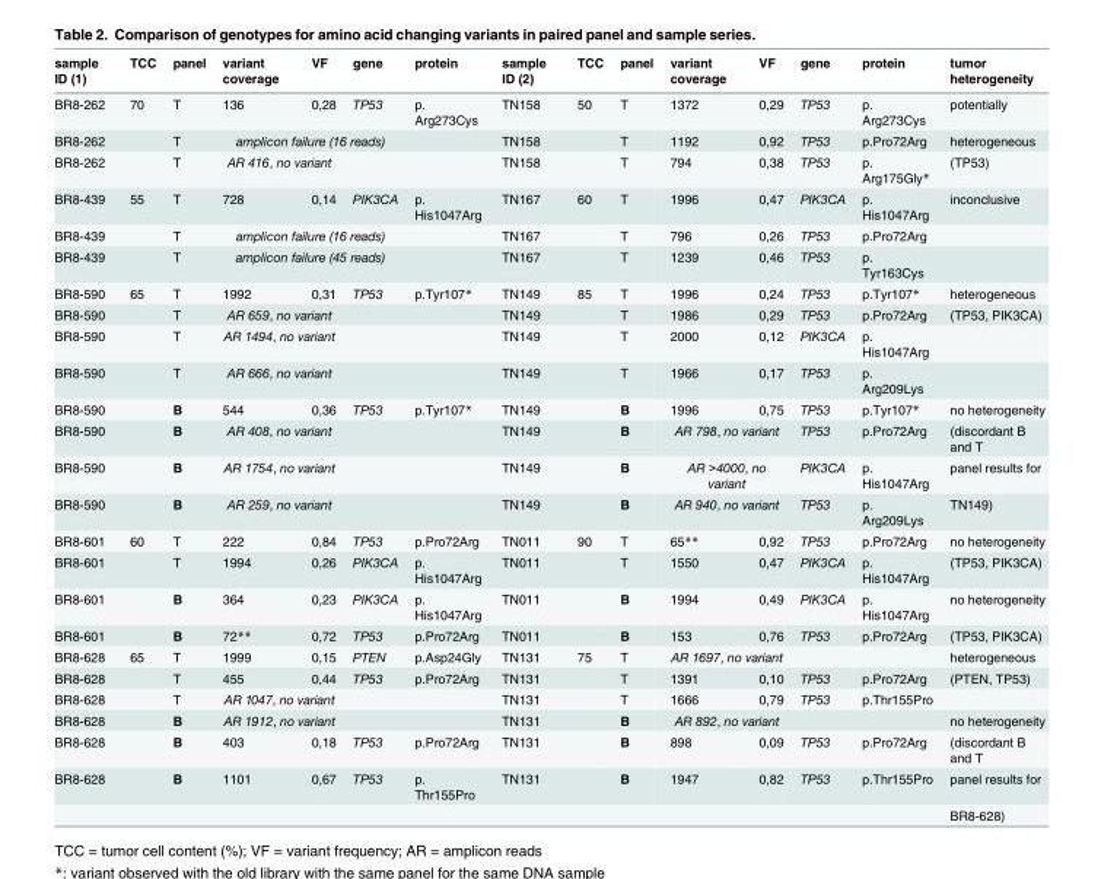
<table><thead><tr><td>sample ID (1)</td><td>TCC</td><td>panel</td><td>variant coverage</td><td>VF</td><td>gene</td><td>protein</td><td>sample ID (2)</td><td>TCC</td><td>panel</td><td>variant coverage</td><td>VF</td><td>gene</td><td>protein</td><td>tumor heterogeneity</td></tr></thead><tbody><tr><td>BR8-262</td><td>70</td><td>T</td><td>136</td><td>0,28</td><td>TP53</td><td>p. Arg273Cys</td><td>TN158</td><td>50</td><td>T</td><td>1372</td><td>0,29</td><td>TP53</td><td>p. Arg273Cys</td><td>potentially</td></tr><tr><td>BR8-262</td><td></td><td>T</td><td colspan="3">amplicon failure (16 reads)</td><td></td><td>TN158</td><td></td><td>T</td><td>1192</td><td>0,92</td><td>TP53</td><td>p.Pro72Arg</td><td>heterogeneous</td></tr><tr><td>BR8-262</td><td></td><td>T</td><td colspan="2">AR 416, no variant</td><td></td><td></td><td>TN158</td><td></td><td>T</td><td>794</td><td>0,38</td><td>TP53</td><td>p. Arg175Gly*</td><td>(TP53)</td></tr><tr><td>BR8-439</td><td>55</td><td>T</td><td>728</td><td>0,14</td><td>PIK3CA</td><td>p. His1047Arg</td><td>TN167</td><td>60</td><td>T</td><td>1996</td><td>0,47</td><td>PIK3CA</td><td>p. His1047Arg</td><td>inconclusive</td></tr><tr><td>BR8-439</td><td></td><td>T</td><td colspan="3">amplicon failure (16 reads)</td><td></td><td>TN167</td><td></td><td>T</td><td>796</td><td>0,26</td><td>TP53</td><td>p.Pro72Arg</td><td></td></tr><tr><td>BR8-439</td><td></td><td>T</td><td colspan="3">amplicon failure (45 reads)</td><td></td><td>TN167</td><td></td><td>T</td><td>1239</td><td>0,46</td><td>TP53</td><td>p. Tyr163Cys</td><td></td></tr><tr><td>BR8-590</td><td>65</td><td>T</td><td>1992</td><td>0,31</td><td>TP53</td><td>p.Tyr107*</td><td>TN149</td><td>85</td><td>T</td><td>1996</td><td>0,24</td><td>TP53</td><td>p.Tyr107*</td><td>heterogeneous</td></tr><tr><td>BR8-590</td><td></td><td>T</td><td colspan="2">AR 659, no variant</td><td></td><td></td><td>TN149</td><td></td><td>T</td><td>1986</td><td>0,29</td><td>TP53</td><td>p.Pro72Arg</td><td>(TP53, PIK3CA)</td></tr><tr><td>BR8-590</td><td></td><td>T</td><td colspan="2">AR 1494, no variant</td><td></td><td></td><td>TN149</td><td></td><td>T</td><td>2000</td><td>0,12</td><td>PIK3CA</td><td>p. His1047Arg</td><td></td></tr><tr><td>BR8-590</td><td></td><td>T</td><td colspan="2">AR 666, no variant</td><td></td><td></td><td>TN149</td><td></td><td>T</td><td>1966</td><td>0,17</td><td>TP53</td><td>p. Arg209Lys</td><td></td></tr><tr><td>BR8-590</td><td></td><td>B</td><td>544</td><td>0,36</td><td>TP53</td><td>p.Tyr107*</td><td>TN149</td><td></td><td>B</td><td>1996</td><td>0,75</td><td>TP53</td><td>p.Tyr107*</td><td>no heterogeneity</td></tr><tr><td>BR8-590</td><td></td><td>B</td><td colspan="2">AR 408, no variant</td><td></td><td></td><td>TN149</td><td></td><td>B</td><td colspan="2">AR 798, no variant</td><td>TP53</td><td>p.Pro72Arg</td><td>(discordant B and T</td></tr><tr><td>BR8-590</td><td></td><td>B</td><td colspan="2">AR 1754, no variant</td><td></td><td></td><td>TN149</td><td></td><td>B</td><td colspan="2">AR &gt;4000, no variant</td><td>PIK3CA</td><td>p. His1047Arg</td><td>panel results for</td></tr><tr><td>BR8-590</td><td></td><td>B</td><td colspan="2">AR 259, no variant</td><td></td><td></td><td>TN149</td><td></td><td>B</td><td colspan="2">AR 940, no variant</td><td>TP53</td><td>p. Arg209Lys</td><td>TN149)</td></tr><tr><td>BR8-601</td><td>60</td><td>T</td><td>222</td><td>0,84</td><td>TP53</td><td>p.Pro72Arg</td><td>TN011</td><td>90</td><td>T</td><td>65**</td><td>0,92</td><td>TP53</td><td>p.Pro72Arg</td><td>no heterogeneity</td></tr><tr><td>BR8-601</td><td></td><td>T</td><td>1994</td><td>0,26</td><td>PIK3CA</td><td>p. His1047Arg</td><td>TN011</td><td></td><td>T</td><td>1550</td><td>0,47</td><td>PIK3CA</td><td>p. His1047Arg</td><td>(TP53, PIK3CA)</td></tr><tr><td>BR8-601</td><td></td><td>B</td><td>364</td><td>0,23</td><td>PIK3CA</td><td>p. His1047Arg</td><td>TN011</td><td></td><td>B</td><td>1994</td><td>0,49</td><td>PIK3CA</td><td>p. His1047Arg</td><td>no heterogeneity</td></tr><tr><td>BR8-601</td><td></td><td>B</td><td>72**</td><td>0,72</td><td>TP53</td><td>p.Pro72Arg</td><td>TN011</td><td></td><td>B</td><td>153</td><td>0,76</td><td>TP53</td><td>p.Pro72Arg</td><td>(TP53, PIK3CA)</td></tr><tr><td>BR8-628</td><td>65</td><td>T</td><td>1999</td><td>0,15</td><td>PTEN</td><td>p.Asp24Gly</td><td>TN131</td><td>75</td><td>T</td><td colspan="2">AR 1697, no variant</td><td></td><td></td><td>heterogeneous</td></tr><tr><td>BR8-628</td><td></td><td>T</td><td>455</td><td>0,44</td><td>TP53</td><td>p.Pro72Arg</td><td>TN131</td><td></td><td>T</td><td>1391</td><td>0,10</td><td>TP53</td><td>p.Pro72Arg</td><td>(PTEN, TP53)</td></tr><tr><td>BR8-628</td><td></td><td>T</td><td colspan="2">AR 1047, no variant</td><td></td><td></td><td>TN131</td><td></td><td>T</td><td>1666</td><td>0,79</td><td>TP53</td><td>p.Thr155Pro</td><td></td></tr><tr><td>BR8-628</td><td></td><td>B</td><td colspan="2">AR 1912, no variant</td><td></td><td></td><td>TN131</td><td></td><td>B</td><td colspan="2">AR 892, no variant</td><td></td><td></td><td>no heterogeneity</td></tr><tr><td>BR8-628</td><td></td><td>B</td><td>403</td><td>0,18</td><td>TP53</td><td>p.Pro72Arg</td><td>TN131</td><td></td><td>B</td><td>898</td><td>0,09</td><td>TP53</td><td>p.Pro72Arg</td><td>(discordant B and T</td></tr><tr><td rowspan="2">BR8-628</td><td></td><td>B</td><td>1101</td><td>0,67</td><td>TP53</td><td>p. Thr155Pro</td><td>TN131</td><td></td><td>B</td><td>1947</td><td>0,82</td><td>TP53</td><td>p.Thr155Pro</td><td>panel results for</td></tr><tr><td></td><td></td><td></td><td></td><td></td><td></td><td></td><td></td><td></td><td></td><td></td><td></td><td></td><td>BR8-628)</td></tr></tbody></table>